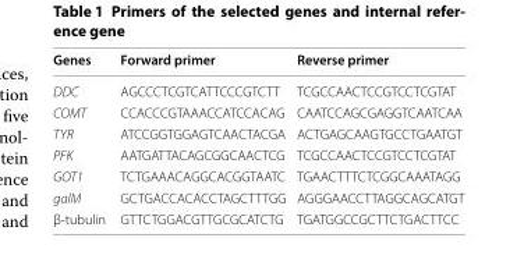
<table><thead><tr><td>Genes</td><td>Forward primer</td><td>Reverse primer</td></tr></thead><tbody><tr><td>DDC</td><td>AGCCCTCGTCATTCCCGTCTT</td><td>TCGCCAACTCCGTCCTCGTAT</td></tr><tr><td>COMT</td><td>CCACCCGTAAACCATCCACAG</td><td>CAATCCAGCGAGGTCAATCAA</td></tr><tr><td>TYR</td><td>ATCCGGTGGAGTCAACTACGA</td><td>ACTGAGCAAGTGCCTGAATGT</td></tr><tr><td>PFK</td><td>AATGATTACAGCGGCAACTCG</td><td>TCGCCAACTCCGTCCTCGTAT</td></tr><tr><td>GOT1</td><td>TCTGAAACAGGCACGGTAATC</td><td>TGAACTTTCTCGGCAAATAGG</td></tr><tr><td>galM</td><td>GCTGACCACACCTAGCTTTGG</td><td>AGGGAACCTTAGGCAGCATGT</td></tr><tr><td>β-tubulin</td><td>GTTCTGGACGTTGCGCATCTG</td><td>TGATGGCCGCTTCTGACTTCC</td></tr></tbody></table>